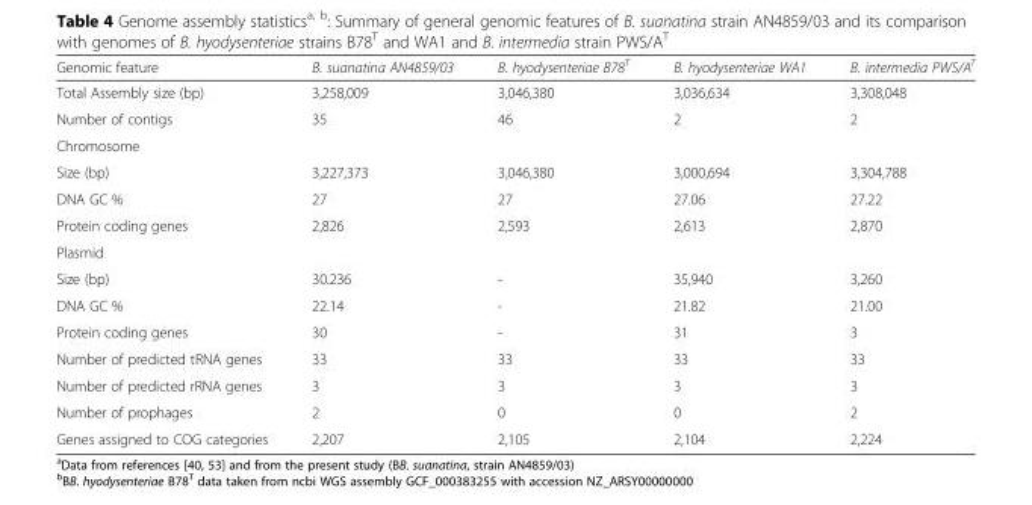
<table><thead><tr><td>Genomic feature</td><td>B. suanatina AN4859/03</td><td>B. hyodysenteriae B78<sup>T</sup></td><td>B. hyodysenteriae WA1</td><td>B. intermedia PWS/A<sup>T</sup></td></tr></thead><tbody><tr><td>Total Assembly size (bp)</td><td>3,258,009</td><td>3,046,380</td><td>3,036,634</td><td>3,308,048</td></tr><tr><td>Number of contigs</td><td>35</td><td>46</td><td>2</td><td>2</td></tr><tr><td colspan="5">Chromosome</td></tr><tr><td>Size (bp)</td><td>3,227,373</td><td>3,046,380</td><td>3,000,694</td><td>3,304,788</td></tr><tr><td>DNA GC %</td><td>27</td><td>27</td><td>27.06</td><td>27.22</td></tr><tr><td>Protein coding genes</td><td>2,826</td><td>2,593</td><td>2,613</td><td>2,870</td></tr><tr><td colspan="5">Plasmid</td></tr><tr><td>Size (bp)</td><td>30.236</td><td>-</td><td>35,940</td><td>3,260</td></tr><tr><td>DNA GC %</td><td>22.14</td><td>-</td><td>21.82</td><td>21.00</td></tr><tr><td>Protein coding genes</td><td>30</td><td>-</td><td>31</td><td>3</td></tr><tr><td>Number of predicted tRNA genes</td><td>33</td><td>33</td><td>33</td><td>33</td></tr><tr><td>Number of predicted rRNA genes</td><td>3</td><td>3</td><td>3</td><td>3</td></tr><tr><td>Number of prophages</td><td>2</td><td>0</td><td>0</td><td>2</td></tr><tr><td>Genes assigned to COG categories</td><td>2,207</td><td>2,105</td><td>2,104</td><td>2,224</td></tr></tbody></table>